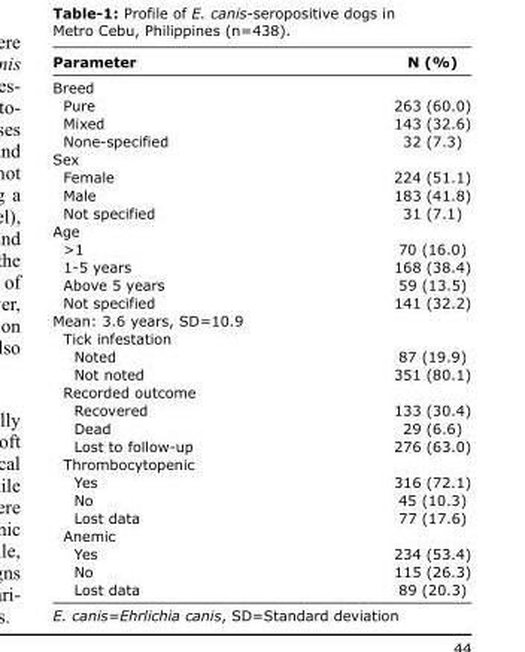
<table><thead><tr><td>Parameter</td><td>N (%)</td></tr></thead><tbody><tr><td colspan="2">Breed</td></tr><tr><td>Pure</td><td>263 (60.0)</td></tr><tr><td>Mixed</td><td>143 (32.6)</td></tr><tr><td>None-specified</td><td>32 (7.3)</td></tr><tr><td colspan="2">Sex</td></tr><tr><td>Female</td><td>224 (51.1)</td></tr><tr><td>Male</td><td>183 (41.8)</td></tr><tr><td>Not specified</td><td>31 (7.1)</td></tr><tr><td colspan="2">Age</td></tr><tr><td>&gt;1</td><td>70 (16.0)</td></tr><tr><td>1-5 years</td><td>168 (38.4)</td></tr><tr><td>Above 5 years</td><td>59 (13.5)</td></tr><tr><td>Not specified</td><td>141 (32.2)</td></tr><tr><td colspan="2">Mean: 3.6 years, SD=10.9</td></tr><tr><td colspan="2">Tick infestation</td></tr><tr><td>Noted</td><td>87 (19.9)</td></tr><tr><td>Not noted</td><td>351 (80.1)</td></tr><tr><td colspan="2">Recorded outcome</td></tr><tr><td>Recovered</td><td>133 (30.4)</td></tr><tr><td>Dead</td><td>29 (6.6)</td></tr><tr><td>Lost to follow-up</td><td>276 (63.0)</td></tr><tr><td colspan="2">Thrombocytopenic</td></tr><tr><td>Yes</td><td>316 (72.1)</td></tr><tr><td>No</td><td>45 (10.3)</td></tr><tr><td>Lost data</td><td>77 (17.6)</td></tr><tr><td colspan="2">Anemic</td></tr><tr><td>Yes</td><td>234 (53.4)</td></tr><tr><td>No</td><td>115 (26.3)</td></tr><tr><td>Lost data</td><td>89 (20.3)</td></tr></tbody></table>